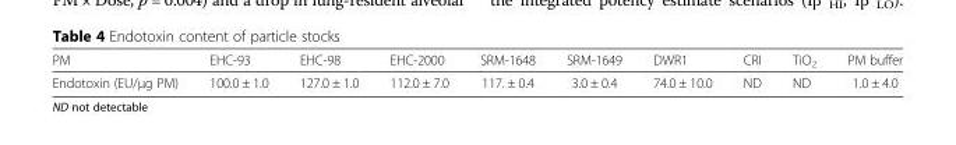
<table><thead><tr><td>PM</td><td>EHC-93</td><td>EHC-98</td><td>EHC-2000</td><td>SRM-1648</td><td>SRM-1649</td><td>DWR1</td><td>CRI</td><td>TiO<sub>2</sub></td><td>PM buffer</td></tr></thead><tbody><tr><td>Endotoxin (EU/μg PM)</td><td>100.0 ± 1.0</td><td>127.0 ± 1.0</td><td>112.0 ± 7.0</td><td>117. ± 0.4</td><td>3.0 ± 0.4</td><td>74.0 ± 10.0</td><td>ND</td><td>ND</td><td>1.0 ± 4.0</td></tr></tbody></table>